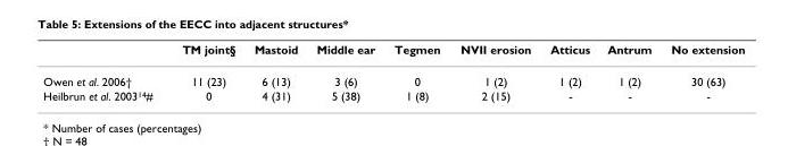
<table><thead><tr><td></td><td>TM joint§</td><td>Mastoid</td><td>Middle ear</td><td>Tegmen</td><td>NVII erosion</td><td>Atticus</td><td>Antrum</td><td>No extension</td></tr></thead><tbody><tr><td>Owen et al. 2006†</td><td>11 (23)</td><td>6 (13)</td><td>3 (6)</td><td>0</td><td>1 (2)</td><td>1 (2)</td><td>1 (2)</td><td>30 (63)</td></tr><tr><td>Heilbrun et al. 2003<sup>14</sup>#</td><td>0</td><td>4 (31)</td><td>5 (38)</td><td>1 (8)</td><td>2 (15)</td><td>-</td><td>-</td><td>-</td></tr></tbody></table>